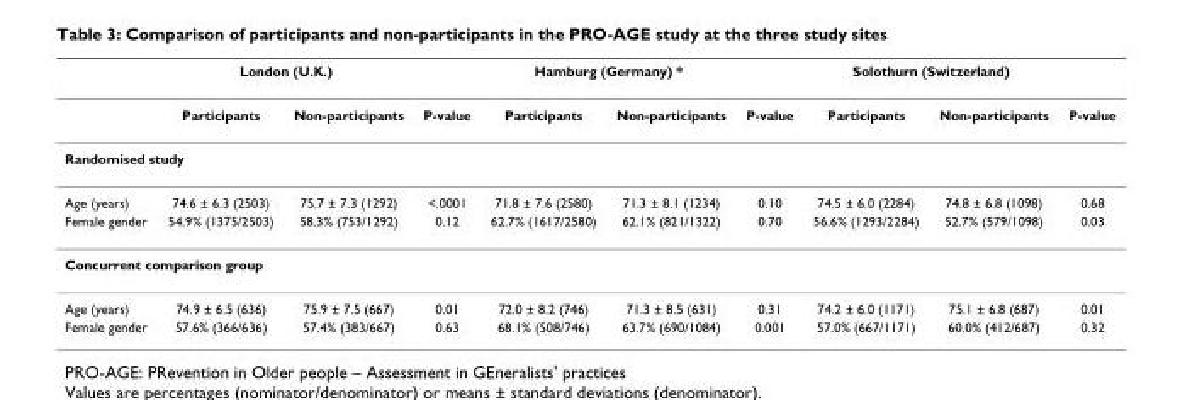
<table><thead><tr><td rowspan="2"></td><td colspan="2">London (U.K.)</td><td rowspan="2">P-value</td><td colspan="2">Hamburg (Germany) *</td><td rowspan="2">P-value</td><td colspan="2">Solothurn (Switzerland)</td><td rowspan="2">P-value</td></tr><tr><td>Participants</td><td>Non-participants</td><td>Participants</td><td>Non-participants</td><td>Participants</td><td>Non-participants</td></tr></thead><tbody><tr><td colspan="10">Randomised study</td></tr><tr><td>Age (years)</td><td>74.6 ± 6.3 (2503)</td><td>75.7 ± 7.3 (1292)</td><td>&lt;.0001</td><td>71.8 ± 7.6 (2580)</td><td>71.3 ± 8.1 (1234)</td><td>0.10</td><td>74.5 ± 6.0 (2284)</td><td>74.8 ± 6.8 (1098)</td><td>0.68</td></tr><tr><td>Female gender</td><td>54.9% (1375/2503)</td><td>58.3% (753/1292)</td><td>0.12</td><td>62.7% (1617/2580)</td><td>62.1% (821/1322)</td><td>0.70</td><td>56.6% (1293/2284)</td><td>52.7% (579/1098)</td><td>0.03</td></tr><tr><td colspan="10">Concurrent comparison group</td></tr><tr><td>Age (years)</td><td>74.9 ± 6.5 (636)</td><td>75.9 ± 7.5 (667)</td><td>0.01</td><td>72.0 ± 8.2 (746)</td><td>71.3 ± 8.5 (631)</td><td>0.31</td><td>74.2 ± 6.0 (1171)</td><td>75.1 ± 6.8 (687)</td><td>0.01</td></tr><tr><td>Female gender</td><td>57.6% (366/636)</td><td>57.4% (383/667)</td><td>0.63</td><td>68.1% (508/746)</td><td>63.7% (690/1084)</td><td>0.001</td><td>57.0% (667/1171)</td><td>60.0% (412/687)</td><td>0.32</td></tr></tbody></table>